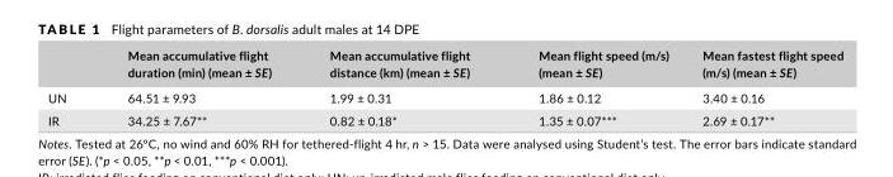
<table><thead><tr><td></td><td>Mean accumulative flight duration (min) (mean ± SE)</td><td>Mean accumulative flight distance (km) (mean ± SE)</td><td>Mean flight speed (m/s) (mean ± SE)</td><td>Mean fastest flight speed (m/s) (mean ± SE)</td></tr></thead><tbody><tr><td>UN</td><td>64.51 ± 9.93</td><td>1.99 ± 0.31</td><td>1.86 ± 0.12</td><td>3.40 ± 0.16</td></tr><tr><td>IR</td><td>34.25 ± 7.67**</td><td>0.82 ± 0.18*</td><td>1.35 ± 0.07***</td><td>2.69 ± 0.17**</td></tr></tbody></table>